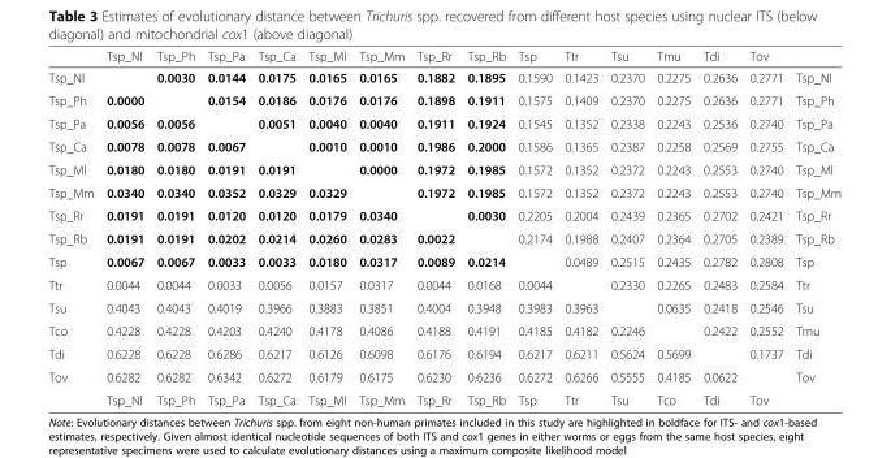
<table><thead><tr><td></td><td>Tsp_Nl</td><td>Tsp_Ph</td><td>Tsp_Pa</td><td>Tsp_Ca</td><td>Tsp_Ml</td><td>Tsp_Mm</td><td>Tsp_Rr</td><td>Tsp_Rb</td><td>Tsp</td><td>Ttr</td><td>Tsu</td><td>Tmu</td><td>Tdi</td><td>Tov</td><td></td></tr></thead><tbody><tr><td>Tsp_Nl</td><td></td><td>0.0030</td><td>0.0144</td><td>0.0175</td><td>0.0165</td><td>0.0165</td><td>0.1882</td><td>0.1895</td><td>0.1590</td><td>0.1423</td><td>0.2370</td><td>0.2275</td><td>0.2636</td><td>0.2771</td><td>Tsp_Nl</td></tr><tr><td>Tsp_Ph</td><td>0.0000</td><td></td><td>0.0154</td><td>0.0186</td><td>0.0176</td><td>0.0176</td><td>0.1898</td><td>0.1911</td><td>0.1575</td><td>0.1409</td><td>0.2370</td><td>0.2275</td><td>0.2636</td><td>0.2771</td><td>Tsp_Ph</td></tr><tr><td>Tsp_Pa</td><td>0.0056</td><td>0.0056</td><td></td><td>0.0051</td><td>0.0040</td><td>0.0040</td><td>0.1911</td><td>0.1924</td><td>0.1545</td><td>0.1352</td><td>0.2338</td><td>0.2243</td><td>0.2536</td><td>0.2740</td><td>Tsp_Pa</td></tr><tr><td>Tsp_Ca</td><td>0.0078</td><td>0.0078</td><td>0.0067</td><td></td><td>0.0010</td><td>0.0010</td><td>0.1986</td><td>0.2000</td><td>0.1586</td><td>0.1365</td><td>0.2387</td><td>0.2258</td><td>0.2569</td><td>0.2755</td><td>Tsp_Ca</td></tr><tr><td>Tsp_Ml</td><td>0.0180</td><td>0.0180</td><td>0.0191</td><td>0.0191</td><td></td><td>0.0000</td><td>0.1972</td><td>0.1985</td><td>0.1572</td><td>0.1352</td><td>0.2372</td><td>0.2243</td><td>0.2553</td><td>0.2740</td><td>Tsp_Ml</td></tr><tr><td>Tsp_Mm</td><td>0.0340</td><td>0.0340</td><td>0.0352</td><td>0.0329</td><td>0.0329</td><td></td><td>0.1972</td><td>0.1985</td><td>0.1572</td><td>0.1352</td><td>0.2372</td><td>0.2243</td><td>0.2553</td><td>0.2740</td><td>Tsp_Mm</td></tr><tr><td>Tsp_Rr</td><td>0.0191</td><td>0.0191</td><td>0.0120</td><td>0.0120</td><td>0.0179</td><td>0.0340</td><td></td><td>0.0030</td><td>0.2205</td><td>0.2004</td><td>0.2439</td><td>0.2365</td><td>0.2702</td><td>0.2421</td><td>Tsp_Rr</td></tr><tr><td>Tsp_Rb</td><td>0.0191</td><td>0.0191</td><td>0.0202</td><td>0.0214</td><td>0.0260</td><td>0.0283</td><td>0.0022</td><td></td><td>0.2174</td><td>0.1988</td><td>0.2407</td><td>0.2364</td><td>0.2705</td><td>0.2389</td><td>Tsp_Rb</td></tr><tr><td>Tsp</td><td>0.0067</td><td>0.0067</td><td>0.0033</td><td>0.0033</td><td>0.0180</td><td>0.0317</td><td>0.0089</td><td>0.0214</td><td></td><td>0.0489</td><td>0.2515</td><td>0.2435</td><td>0.2782</td><td>0.2808</td><td>Tsp</td></tr><tr><td>Ttr</td><td>0.0044</td><td>0.0044</td><td>0.0033</td><td>0.0056</td><td>0.0157</td><td>0.0317</td><td>0.0044</td><td>0.0168</td><td>0.0044</td><td></td><td>0.2330</td><td>0.2265</td><td>0.2483</td><td>0.2584</td><td>Ttr</td></tr><tr><td>Tsu</td><td>0.4043</td><td>0.4043</td><td>0.4019</td><td>0.3966</td><td>0.3883</td><td>0.3851</td><td>0.4004</td><td>0.3948</td><td>0.3983</td><td>0.3963</td><td></td><td>0.0635</td><td>0.2418</td><td>0.2546</td><td>Tsu</td></tr><tr><td>Tco</td><td>0.4228</td><td>0.4228</td><td>0.4203</td><td>0.4240</td><td>0.4178</td><td>0.4086</td><td>0.4188</td><td>0.4191</td><td>0.4185</td><td>0.4182</td><td>0.2246</td><td></td><td>0.2422</td><td>0.2552</td><td>Tmu</td></tr><tr><td>Tdi</td><td>0.6228</td><td>0.6228</td><td>0.6286</td><td>0.6217</td><td>0.6126</td><td>0.6098</td><td>0.6176</td><td>0.6194</td><td>0.6217</td><td>0.6211</td><td>0.5624</td><td>0.5699</td><td></td><td>0.1737</td><td>Tdi</td></tr><tr><td rowspan="2">Tov</td><td>0.6282</td><td>0.6282</td><td>0.6342</td><td>0.6272</td><td>0.6179</td><td>0.6175</td><td>0.6230</td><td>0.6236</td><td>0.6272</td><td>0.6266</td><td>0.5555</td><td>0.4185</td><td>0.0622</td><td></td><td>Tov</td></tr><tr><td>Tsp_Nl</td><td>Tsp_Ph</td><td>Tsp_Pa</td><td>Tsp_Ca</td><td>Tsp_Ml</td><td>Tsp_Mm</td><td>Tsp_Rr</td><td>Tsp_Rb</td><td>Tsp</td><td>Ttr</td><td>Tsu</td><td>Tco</td><td>Tdi</td><td>Tov</td><td></td></tr></tbody></table>